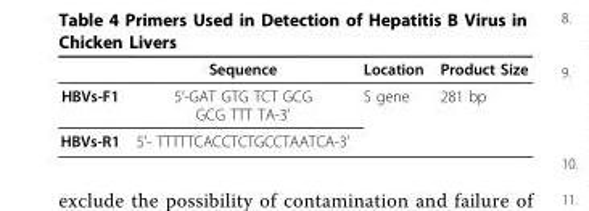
<table><thead><tr><td></td><td>Sequence</td><td>Location</td><td>Product Size</td></tr></thead><tbody><tr><td>HBVs-F1</td><td>5’-GAT GTG TCT GCG GCG TTT TA-3’</td><td>S gene</td><td>281 bp</td></tr><tr><td>HBVs-R1</td><td>5’- TTTTTCACCTCTGCCTAATCA-3’</td><td></td><td></td></tr></tbody></table>